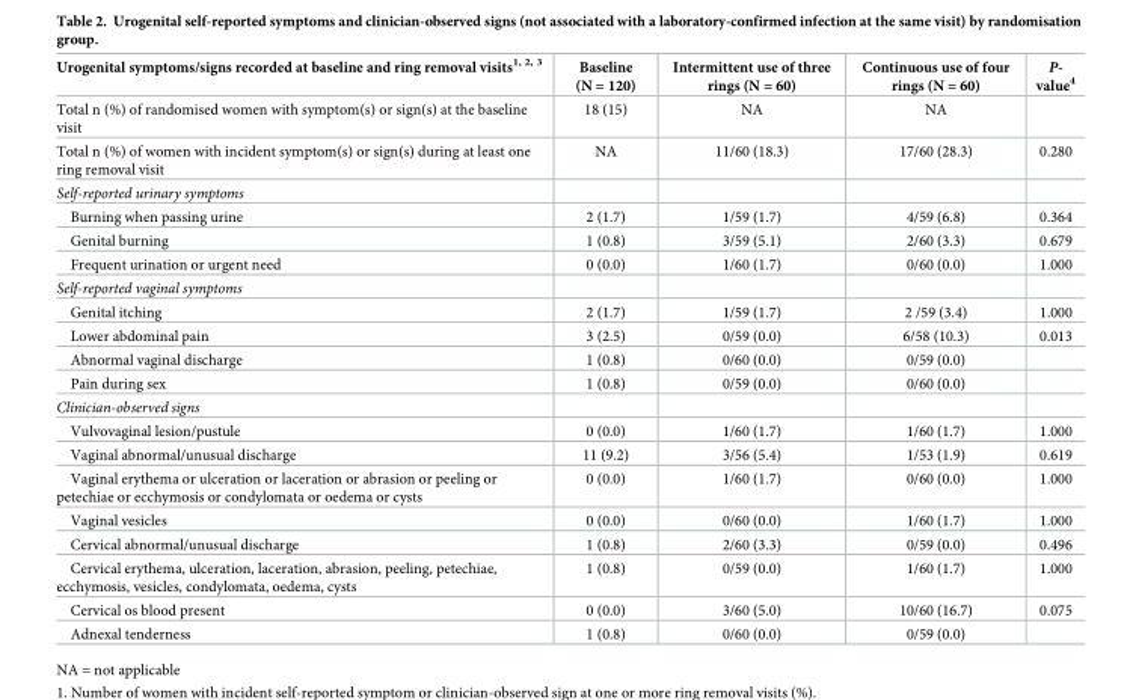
<table><thead><tr><td>Urogenital symptoms/signs recorded at baseline and ring removal visits<sup>1, 2, 3</sup></td><td>Baseline (N = 120)</td><td>Intermittent use of three rings (N = 60)</td><td>Continuous use of four rings (N = 60)</td><td>P- value<sup>4</sup></td></tr></thead><tbody><tr><td>Total n (%) of randomised women with symptom(s) or sign(s) at the baseline visit</td><td>18 (15)</td><td>NA</td><td>NA</td><td></td></tr><tr><td>Total n (%) of women with incident symptom(s) or sign(s) during at least one ring removal visit</td><td>NA</td><td>11/60 (18.3)</td><td>17/60 (28.3)</td><td>0.280</td></tr><tr><td colspan="5">Self-reported urinary symptoms</td></tr><tr><td>Burning when passing urine</td><td>2 (1.7)</td><td>1/59 (1.7)</td><td>4/59 (6.8)</td><td>0.364</td></tr><tr><td>Genital burning</td><td>1 (0.8)</td><td>3/59 (5.1)</td><td>2/60 (3.3)</td><td>0.679</td></tr><tr><td>Frequent urination or urgent need</td><td>0 (0.0)</td><td>1/60 (1.7)</td><td>0/60 (0.0)</td><td>1.000</td></tr><tr><td colspan="5">Self-reported vaginal symptoms</td></tr><tr><td>Genital itching</td><td>2 (1.7)</td><td>1/59 (1.7)</td><td>2 /59 (3.4)</td><td>1.000</td></tr><tr><td>Lower abdominal pain</td><td>3 (2.5)</td><td>0/59 (0.0)</td><td>6/58 (10.3)</td><td>0.013</td></tr><tr><td>Abnormal vaginal discharge</td><td>1 (0.8)</td><td>0/60 (0.0)</td><td>0/59 (0.0)</td><td></td></tr><tr><td>Pain during sex</td><td>1 (0.8)</td><td>0/59 (0.0)</td><td>0/60 (0.0)</td><td></td></tr><tr><td colspan="5">Clinician-observed signs</td></tr><tr><td>Vulvovaginal lesion/pustule</td><td>0 (0.0)</td><td>1/60 (1.7)</td><td>1/60 (1.7)</td><td>1.000</td></tr><tr><td>Vaginal abnormal/unusual discharge</td><td>11 (9.2)</td><td>3/56 (5.4)</td><td>1/53 (1.9)</td><td>0.619</td></tr><tr><td>Vaginal erythema or ulceration or laceration or abrasion or peeling or petechiae or ecchymosis or condylomata or oedema or cysts</td><td>0 (0.0)</td><td>1/60 (1.7)</td><td>0/60 (0.0)</td><td>1.000</td></tr><tr><td>Vaginal vesicles</td><td>0 (0.0)</td><td>0/60 (0.0)</td><td>1/60 (1.7)</td><td>1.000</td></tr><tr><td>Cervical abnormal/unusual discharge</td><td>1 (0.8)</td><td>2/60 (3.3)</td><td>0/59 (0.0)</td><td>0.496</td></tr><tr><td>Cervical erythema, ulceration, laceration, abrasion, peeling, petechiae, ecchymosis, vesicles, condylomata, oedema, cysts</td><td>1 (0.8)</td><td>0/59 (0.0)</td><td>1/60 (1.7)</td><td>1.000</td></tr><tr><td>Cervical os blood present</td><td>0 (0.0)</td><td>3/60 (5.0)</td><td>10/60 (16.7)</td><td>0.075</td></tr><tr><td>Adnexal tenderness</td><td>1 (0.8)</td><td>0/60 (0.0)</td><td>0/59 (0.0)</td><td></td></tr></tbody></table>